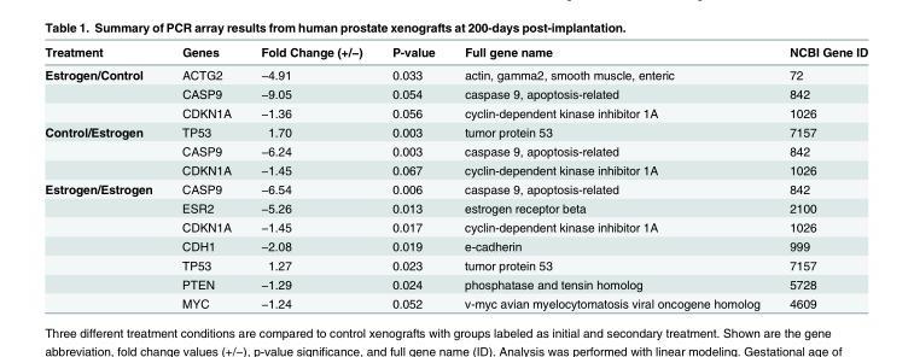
<table><thead><tr><td>Treatment</td><td>Genes</td><td>Fold Change (+/−)</td><td>P-value</td><td>Full gene name</td><td>NCBI Gene ID</td></tr></thead><tbody><tr><td rowspan="3">Estrogen/Control</td><td>ACTG2</td><td>−4.91</td><td>0.033</td><td>actin, gamma2, smooth muscle, enteric</td><td>72</td></tr><tr><td>CASP9</td><td>−9.05</td><td>0.054</td><td>caspase 9, apoptosis-related</td><td>842</td></tr><tr><td>CDKN1A</td><td>−1.36</td><td>0.056</td><td>cyclin-dependent kinase inhibitor 1A</td><td>1026</td></tr><tr><td rowspan="3">Control/Estrogen</td><td>TP53</td><td>1.70</td><td>0.003</td><td>tumor protein 53</td><td>7157</td></tr><tr><td>CASP9</td><td>−6.24</td><td>0.003</td><td>caspase 9, apoptosis-related</td><td>842</td></tr><tr><td>CDKN1A</td><td>−1.45</td><td>0.067</td><td>cyclin-dependent kinase inhibitor 1A</td><td>1026</td></tr><tr><td rowspan="7">Estrogen/Estrogen</td><td>CASP9</td><td>−6.54</td><td>0.006</td><td>caspase 9, apoptosis-related</td><td>842</td></tr><tr><td>ESR2</td><td>−5.26</td><td>0.013</td><td>estrogen receptor beta</td><td>2100</td></tr><tr><td>CDKN1A</td><td>−1.45</td><td>0.017</td><td>cyclin-dependent kinase inhibitor 1A</td><td>1026</td></tr><tr><td>CDH1</td><td>−2.08</td><td>0.019</td><td>e-cadherin</td><td>999</td></tr><tr><td>TP53</td><td>1.27</td><td>0.023</td><td>tumor protein 53</td><td>7157</td></tr><tr><td>PTEN</td><td>−1.29</td><td>0.024</td><td>phosphatase and tensin homolog</td><td>5728</td></tr><tr><td>MYC</td><td>−1.24</td><td>0.052</td><td>v-myc avian myelocytomatosis viral oncogene homolog</td><td>4609</td></tr></tbody></table>